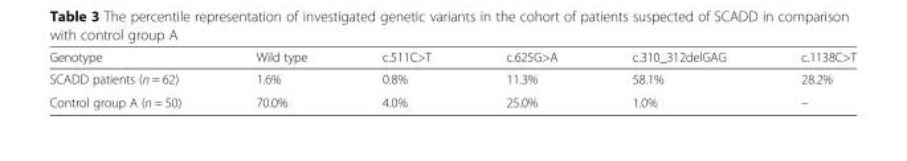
<table><thead><tr><td>Genotype</td><td>Wild type</td><td>c.511C&gt;T</td><td>c.625G&gt;A</td><td>c.310_312delGAG</td><td>c.1138C&gt;T</td></tr></thead><tbody><tr><td>SCADD patients (n = 62)</td><td>1.6%</td><td>0.8%</td><td>11.3%</td><td>58.1%</td><td>28.2%</td></tr><tr><td>Control group A (n = 50)</td><td>70.0%</td><td>4.0%</td><td>25.0%</td><td>1.0%</td><td>–</td></tr></tbody></table>